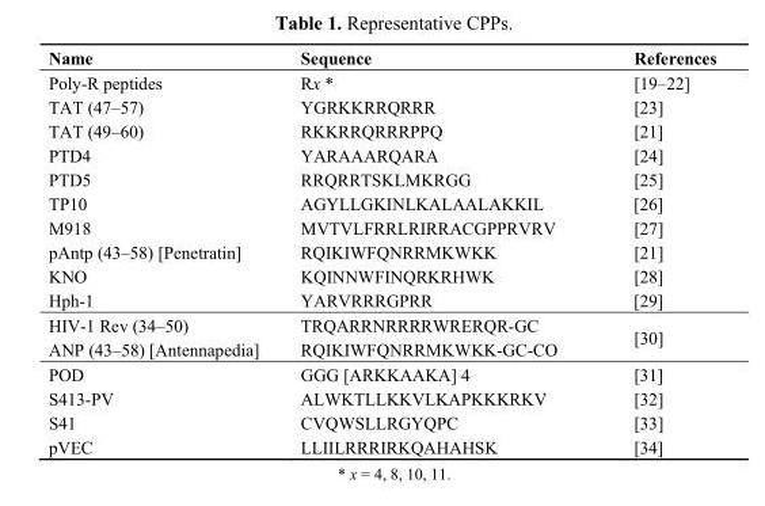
<table><thead><tr><td>Name</td><td>Sequence</td><td>References</td></tr></thead><tbody><tr><td>Poly-R peptides</td><td>Rx *</td><td>[19–22]</td></tr><tr><td>TAT (47–57)</td><td>YGRKKRRQRRR</td><td>[23]</td></tr><tr><td>TAT (49–60)</td><td>RKKRRQRRRPPQ</td><td>[21]</td></tr><tr><td>PTD4</td><td>YARAAARQARA</td><td>[24]</td></tr><tr><td>PTD5</td><td>RRQRRTSKLMKRGG</td><td>[25]</td></tr><tr><td>TP10</td><td>AGYLLGKINLKALAALAKKIL</td><td>[26]</td></tr><tr><td>M918</td><td>MVTVLFRRLRIRRACGPPRVRV</td><td>[27]</td></tr><tr><td>pAntp (43–58) [Penetratin]</td><td>RQIKIWFQNRRMKWKK</td><td>[21]</td></tr><tr><td>KNO</td><td>KQINNWFINQRKRHWK</td><td>[28]</td></tr><tr><td>Hph-1</td><td>YARVRRRGPRR</td><td>[29]</td></tr><tr><td>HIV-1 Rev (34–50) ANP (43–58) [Antennapedia]</td><td>TRQARRNRRRRWRERQR-GC RQIKIWFQNRRMKWKK-GC-CO</td><td>[30]</td></tr><tr><td>POD</td><td>GGG [ARKKAAKA] 4</td><td>[31]</td></tr><tr><td>S413-PV</td><td>ALWKTLLKKVLKAPKKKRKV</td><td>[32]</td></tr><tr><td>S41</td><td>CVQWSLLRGYQPC</td><td>[33]</td></tr><tr><td>pVEC</td><td>LLIILRRRIRKQAHAHSK</td><td>[34]</td></tr></tbody></table>